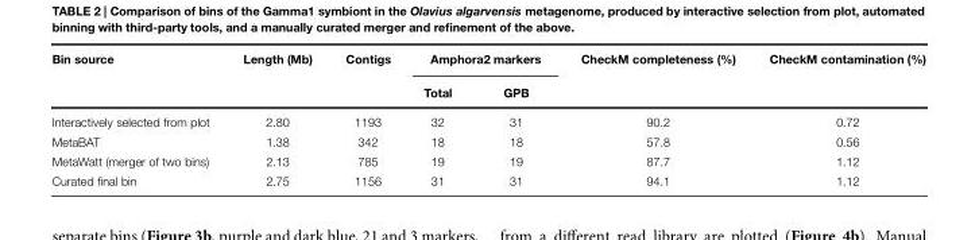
<table><thead><tr><td rowspan="2">Bin source</td><td rowspan="2">Length (Mb)</td><td rowspan="2">Contigs</td><td colspan="2">Amphora2 markers</td><td rowspan="2">CheckM completeness (%)</td><td rowspan="2">CheckM contamination (%)</td></tr><tr><td>Total</td><td>GPB</td></tr></thead><tbody><tr><td>Interactively selected from plot</td><td>2.80</td><td>1193</td><td>32</td><td>31</td><td>90.2</td><td>0.72</td></tr><tr><td>MetaBAT</td><td>1.38</td><td>342</td><td>18</td><td>18</td><td>57.8</td><td>0.56</td></tr><tr><td>MetaWatt (merger of two bins)</td><td>2.13</td><td>785</td><td>19</td><td>19</td><td>87.7</td><td>1.12</td></tr><tr><td>Curated final bin</td><td>2.75</td><td>1156</td><td>31</td><td>31</td><td>94.1</td><td>1.12</td></tr></tbody></table>